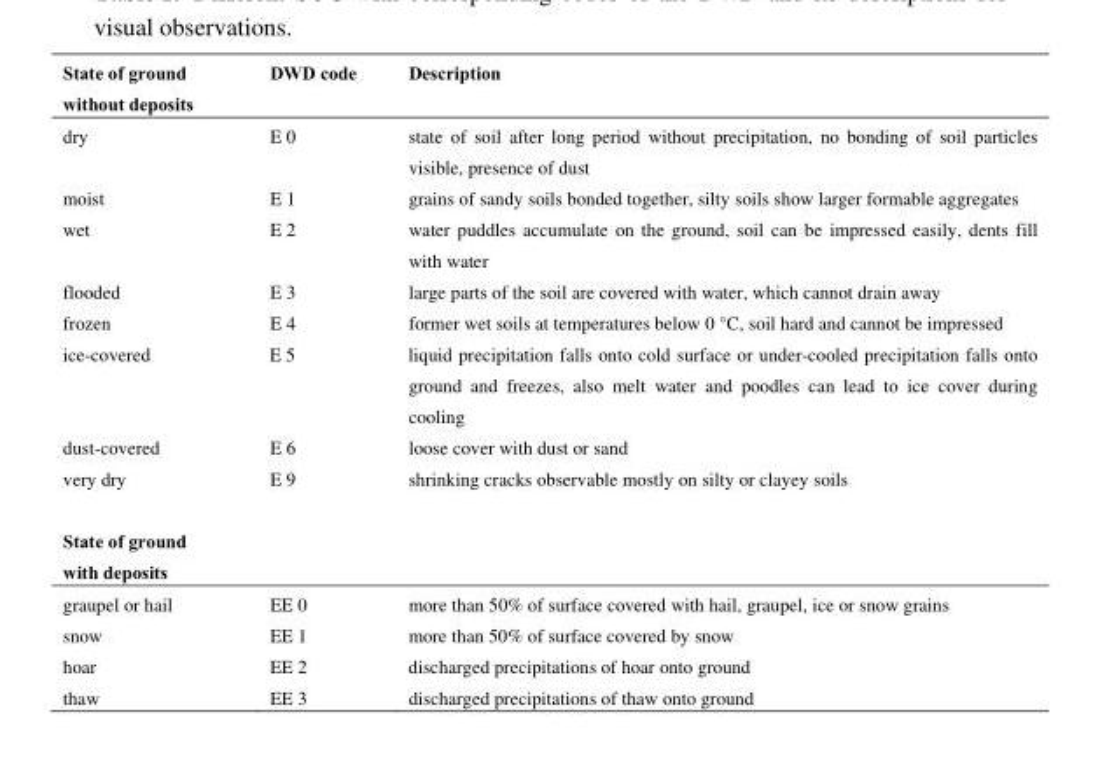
<table><thead><tr><td>State of ground without deposits</td><td>DWD code</td><td>Description</td></tr></thead><tbody><tr><td>dry</td><td>E 0</td><td>state of soil after long period without precipitation, no bonding of soil particles visible, presence of dust</td></tr><tr><td>moist</td><td>E 1</td><td>grains of sandy soils bonded together, silty soils show larger formable aggregates</td></tr><tr><td>wet</td><td>E 2</td><td>water puddles accumulate on the ground, soil can be impressed easily, dents fill with water</td></tr><tr><td>flooded</td><td>E 3</td><td>large parts of the soil are covered with water, which cannot drain away</td></tr><tr><td>frozen</td><td>E 4</td><td>former wet soils at temperatures below 0 °C, soil hard and cannot be impressed</td></tr><tr><td>ice-covered</td><td>E 5</td><td>liquid precipitation falls onto cold surface or under-cooled precipitation falls onto ground and freezes, also melt water and poodles can lead to ice cover during cooling</td></tr><tr><td>dust-covered</td><td>E 6</td><td>loose cover with dust or sand</td></tr><tr><td>very dry</td><td>E 9</td><td>shrinking cracks observable mostly on silty or clayey soils</td></tr><tr><td colspan="3">State of ground with deposits</td></tr><tr><td>graupel or hail</td><td>EE 0</td><td>more than 50% of surface covered with hail, graupel, ice or snow grains</td></tr><tr><td>snow</td><td>EE 1</td><td>more than 50% of surface covered by snow</td></tr><tr><td>hoar</td><td>EE 2</td><td>discharged precipitations of hoar onto ground</td></tr><tr><td>thaw</td><td>EE 3</td><td>discharged precipitations of thaw onto ground</td></tr></tbody></table>